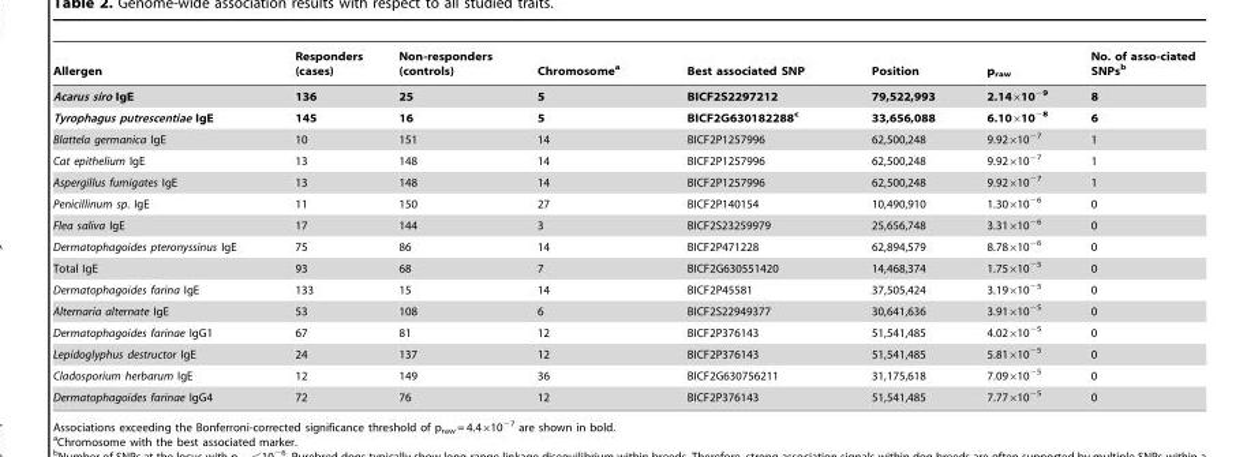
<table><thead><tr><td>Allergen</td><td>Responders (cases)</td><td>Non-responders (controls)</td><td>Chromosome<sup>a</sup></td><td>Best associated SNP</td><td>Position</td><td>p<sub>raw</sub></td><td>No. of asso-ciated SNPs<sup>b</sup></td></tr></thead><tbody><tr><td>Acarus siro IgE</td><td>136</td><td>25</td><td>5</td><td>BICF2S2297212</td><td>79,522,993</td><td>2.14×10<sup>−9</sup></td><td>8</td></tr><tr><td>Tyrophagus putrescentiae IgE</td><td>145</td><td>16</td><td>5</td><td>BICF2G630182288c</td><td>33,656,088</td><td>6.10×10<sup>−8</sup></td><td>6</td></tr><tr><td>Blattela germanica IgE</td><td>10</td><td>151</td><td>14</td><td>BICF2P1257996</td><td>62,500,248</td><td>9.92×10<sup>−7</sup></td><td>1</td></tr><tr><td>Cat epithelium IgE</td><td>13</td><td>148</td><td>14</td><td>BICF2P1257996</td><td>62,500,248</td><td>9.92×10<sup>−7</sup></td><td>1</td></tr><tr><td>Aspergillus fumigates IgE</td><td>13</td><td>148</td><td>14</td><td>BICF2P1257996</td><td>62,500,248</td><td>9.92×10<sup>−7</sup></td><td>1</td></tr><tr><td>Penicillinum sp. IgE</td><td>11</td><td>150</td><td>27</td><td>BICF2P140154</td><td>10,490,910</td><td>1.30×10<sup>−6</sup></td><td>0</td></tr><tr><td>Flea saliva IgE</td><td>17</td><td>144</td><td>3</td><td>BICF2S23259979</td><td>25,656,748</td><td>3.31×10<sup>−6</sup></td><td>0</td></tr><tr><td>Dermatophagoides pteronyssinus IgE</td><td>75</td><td>86</td><td>14</td><td>BICF2P471228</td><td>62,894,579</td><td>8.78×10<sup>−6</sup></td><td>0</td></tr><tr><td>Total IgE</td><td>93</td><td>68</td><td>7</td><td>BICF2G630551420</td><td>14,468,374</td><td>1.75×10<sup>−5</sup></td><td>0</td></tr><tr><td>Dermatophagoides farina IgE</td><td>133</td><td>15</td><td>14</td><td>BICF2P45581</td><td>37,505,424</td><td>3.19×10<sup>−5</sup></td><td>0</td></tr><tr><td>Alternaria alternate IgE</td><td>53</td><td>108</td><td>6</td><td>BICF2S22949377</td><td>30,641,636</td><td>3.91×10<sup>−5</sup></td><td>0</td></tr><tr><td>Dermatophagoides farinae IgG1</td><td>67</td><td>81</td><td>12</td><td>BICF2P376143</td><td>51,541,485</td><td>4.02×10<sup>−5</sup></td><td>0</td></tr><tr><td>Lepidoglyphus destructor IgE</td><td>24</td><td>137</td><td>12</td><td>BICF2P376143</td><td>51,541,485</td><td>5.81×10<sup>−5</sup></td><td>0</td></tr><tr><td>Cladosporium herbarum IgE</td><td>12</td><td>149</td><td>36</td><td>BICF2G630756211</td><td>31,175,618</td><td>7.09×10<sup>−5</sup></td><td>0</td></tr><tr><td>Dermatophagoides farinae IgG4</td><td>72</td><td>76</td><td>12</td><td>BICF2P376143</td><td>51,541,485</td><td>7.77×10<sup>−5</sup></td><td>0</td></tr></tbody></table>